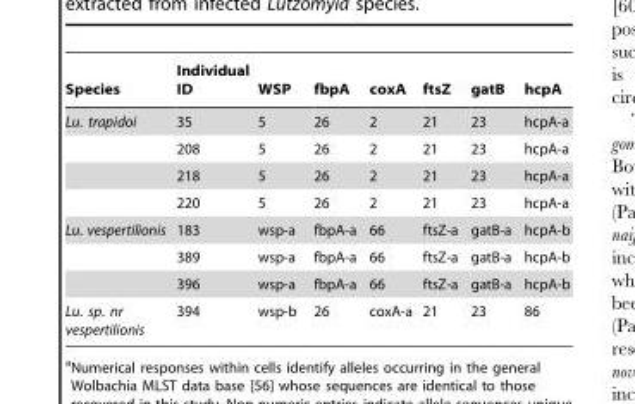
<table><thead><tr><td>Species</td><td>Individual ID</td><td>WSP</td><td>fbpA</td><td>coxA</td><td>ftsZ</td><td>gatB</td><td>hcpA</td></tr></thead><tbody><tr><td rowspan="4">Lu. trapidoi</td><td>35</td><td>5</td><td>26</td><td>2</td><td>21</td><td>23</td><td>hcpA-a</td></tr><tr><td>208</td><td>5</td><td>26</td><td>2</td><td>21</td><td>23</td><td>hcpA-a</td></tr><tr><td>218</td><td>5</td><td>26</td><td>2</td><td>21</td><td>23</td><td>hcpA-a</td></tr><tr><td>220</td><td>5</td><td>26</td><td>2</td><td>21</td><td>23</td><td>hcpA-a</td></tr><tr><td rowspan="3">Lu. vespertilionis</td><td>183</td><td>wsp-a</td><td>fbpA-a</td><td>66</td><td>ftsZ-a</td><td>gatB-a</td><td>hcpA-b</td></tr><tr><td>389</td><td>wsp-a</td><td>fbpA-a</td><td>66</td><td>ftsZ-a</td><td>gatB-a</td><td>hcpA-b</td></tr><tr><td>396</td><td>wsp-a</td><td>fbpA-a</td><td>66</td><td>ftsZ-a</td><td>gatB-a</td><td>hcpA-b</td></tr><tr><td>Lu. sp. nr vespertilionis</td><td>394</td><td>wsp-b</td><td>26</td><td>coxA-a</td><td>21</td><td>23</td><td>86</td></tr></tbody></table>